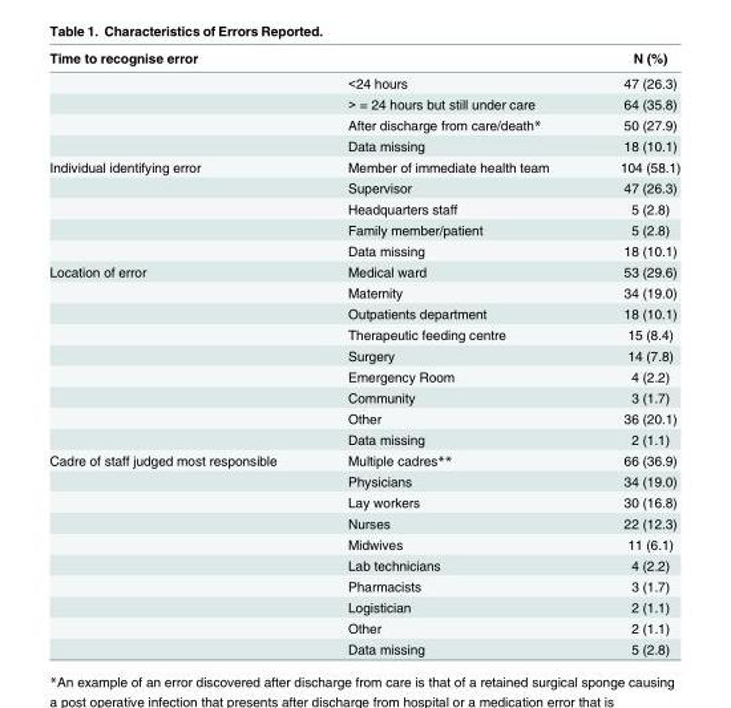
<table><thead><tr><td>Time to recognise error</td><td></td><td>N (%)</td></tr></thead><tbody><tr><td></td><td>&lt;24 hours</td><td>47 (26.3)</td></tr><tr><td></td><td>&gt; = 24 hours but still under care</td><td>64 (35.8)</td></tr><tr><td></td><td>After discharge from care/death*</td><td>50 (27.9)</td></tr><tr><td></td><td>Data missing</td><td>18 (10.1)</td></tr><tr><td rowspan="5">Individual identifying error</td><td>Member of immediate health team</td><td>104 (58.1)</td></tr><tr><td>Supervisor</td><td>47 (26.3)</td></tr><tr><td>Headquarters staff</td><td>5 (2.8)</td></tr><tr><td>Family member/patient</td><td>5 (2.8)</td></tr><tr><td>Data missing</td><td>18 (10.1)</td></tr><tr><td rowspan="9">Location of error</td><td>Medical ward</td><td>53 (29.6)</td></tr><tr><td>Maternity</td><td>34 (19.0)</td></tr><tr><td>Outpatients department</td><td>18 (10.1)</td></tr><tr><td>Therapeutic feeding centre</td><td>15 (8.4)</td></tr><tr><td>Surgery</td><td>14 (7.8)</td></tr><tr><td>Emergency Room</td><td>4 (2.2)</td></tr><tr><td>Community</td><td>3 (1.7)</td></tr><tr><td>Other</td><td>36 (20.1)</td></tr><tr><td>Data missing</td><td>2 (1.1)</td></tr><tr><td rowspan="10">Cadre of staff judged most responsible</td><td>Multiple cadres**</td><td>66 (36.9)</td></tr><tr><td>Physicians</td><td>34 (19.0)</td></tr><tr><td>Lay workers</td><td>30 (16.8)</td></tr><tr><td>Nurses</td><td>22 (12.3)</td></tr><tr><td>Midwives</td><td>11 (6.1)</td></tr><tr><td>Lab technicians</td><td>4 (2.2)</td></tr><tr><td>Pharmacists</td><td>3 (1.7)</td></tr><tr><td>Logistician</td><td>2 (1.1)</td></tr><tr><td>Other</td><td>2 (1.1)</td></tr><tr><td>Data missing</td><td>5 (2.8)</td></tr></tbody></table>